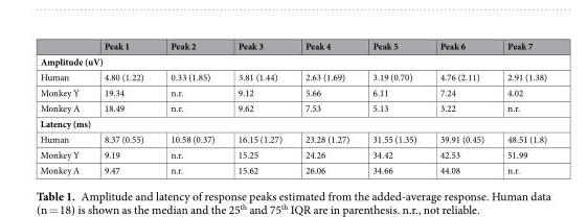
<table><thead><tr><td></td><td>Peak 1</td><td>Peak 2</td><td>Peak 3</td><td>Peak 4</td><td>Peak 5</td><td>Peak 6</td><td>Peak 7</td></tr></thead><tbody><tr><td colspan="8">Amplitude (uV)</td></tr><tr><td>Human</td><td>4.80 (1.22)</td><td>0.33 (1.85)</td><td>3.81 (1.44)</td><td>2.63 (1.69)</td><td>3.19 (0.70)</td><td>4.76 (2.11)</td><td>2.91 (1.38)</td></tr><tr><td>Monkey Y</td><td>19.34</td><td>n.r.</td><td>9.12</td><td>5.66</td><td>6.11</td><td>7.24</td><td>4.02</td></tr><tr><td>Monkey A</td><td>18.49</td><td>n.r.</td><td>9.62</td><td>7.53</td><td>5.13</td><td>3.22</td><td>n.r.</td></tr><tr><td colspan="8">Latency (ms)</td></tr><tr><td>Human</td><td>8.37 (0.55)</td><td>10.58 (0.37)</td><td>16.15 (1.27)</td><td>23.28 (1.27)</td><td>31.55 (1.35)</td><td>39.91 (0.45)</td><td>48.51 (1.8)</td></tr><tr><td>Monkey Y</td><td>9.19</td><td>n.r.</td><td>15.25</td><td>24.26</td><td>34.42</td><td>42.53</td><td>51.99</td></tr><tr><td>Monkey A</td><td>9.47</td><td>n.r.</td><td>15.62</td><td>26.06</td><td>34.66</td><td>44.08</td><td>n.r.</td></tr></tbody></table>